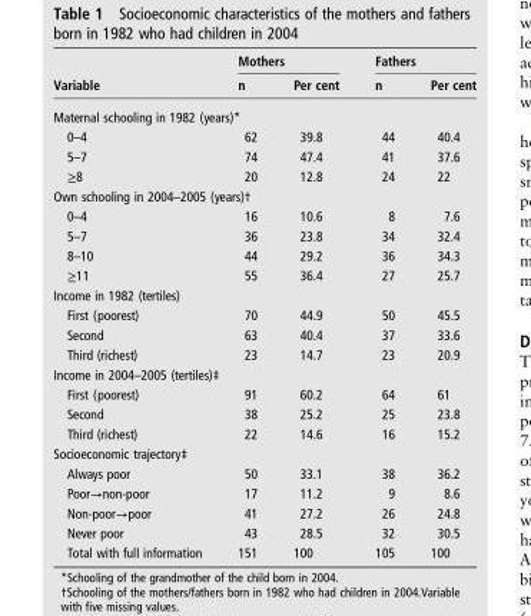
<table><thead><tr><td rowspan="2">Variable</td><td colspan="2">Mothers</td><td colspan="2">Fathers</td></tr><tr><td>n</td><td>Per cent</td><td>n</td><td>Per cent</td></tr></thead><tbody><tr><td colspan="5">Maternal schooling in 1982 (years)*</td></tr><tr><td>0–4</td><td>62</td><td>39.8</td><td>44</td><td>40.4</td></tr><tr><td>5–7</td><td>74</td><td>47.4</td><td>41</td><td>37.6</td></tr><tr><td>≥8</td><td>20</td><td>12.8</td><td>24</td><td>22</td></tr><tr><td colspan="5">Own schooling in 2004–2005 (years)†</td></tr><tr><td>0–4</td><td>16</td><td>10.6</td><td>8</td><td>7.6</td></tr><tr><td>5–7</td><td>36</td><td>23.8</td><td>34</td><td>32.4</td></tr><tr><td>8–10</td><td>44</td><td>29.2</td><td>36</td><td>34.3</td></tr><tr><td>≥11</td><td>55</td><td>36.4</td><td>27</td><td>25.7</td></tr><tr><td colspan="5">Income in 1982 (tertiles)</td></tr><tr><td>First (poorest)</td><td>70</td><td>44.9</td><td>50</td><td>45.5</td></tr><tr><td>Second</td><td>63</td><td>40.4</td><td>37</td><td>33.6</td></tr><tr><td>Third (richest)</td><td>23</td><td>14.7</td><td>23</td><td>20.9</td></tr><tr><td colspan="5">Income in 2004–2005 (tertiles)‡</td></tr><tr><td>First (poorest)</td><td>91</td><td>60.2</td><td>64</td><td>61</td></tr><tr><td>Second</td><td>38</td><td>25.2</td><td>25</td><td>23.8</td></tr><tr><td>Third (richest)</td><td>22</td><td>14.6</td><td>16</td><td>15.2</td></tr><tr><td colspan="5">Socioeconomic trajectory‡</td></tr><tr><td>Always poor</td><td>50</td><td>33.1</td><td>38</td><td>36.2</td></tr><tr><td>Poor→non-poor</td><td>17</td><td>11.2</td><td>9</td><td>8.6</td></tr><tr><td>Non-poor→poor</td><td>41</td><td>27.2</td><td>26</td><td>24.8</td></tr><tr><td>Never poor</td><td>43</td><td>28.5</td><td>32</td><td>30.5</td></tr><tr><td>Total with full information</td><td>151</td><td>100</td><td>105</td><td>100</td></tr></tbody></table>